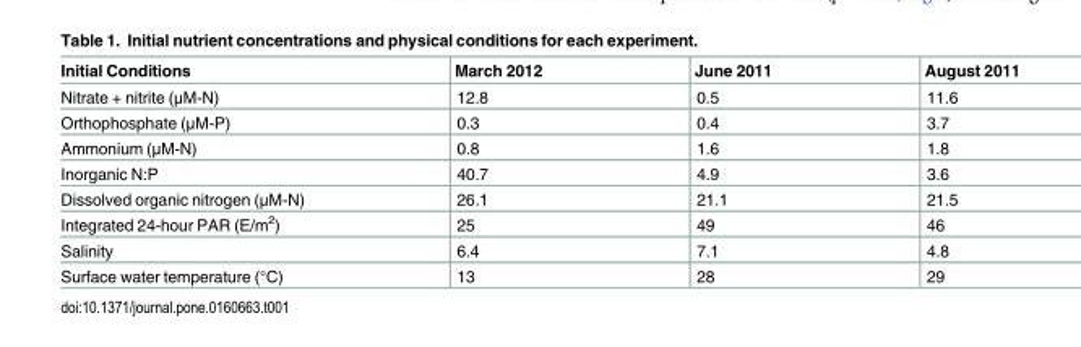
<table><thead><tr><td>Initial Conditions</td><td>March 2012</td><td>June 2011</td><td>August 2011</td></tr></thead><tbody><tr><td>Nitrate + nitrite (μM-N)</td><td>12.8</td><td>0.5</td><td>11.6</td></tr><tr><td>Orthophosphate (μM-P)</td><td>0.3</td><td>0.4</td><td>3.7</td></tr><tr><td>Ammonium (μM-N)</td><td>0.8</td><td>1.6</td><td>1.8</td></tr><tr><td>Inorganic N:P</td><td>40.7</td><td>4.9</td><td>3.6</td></tr><tr><td>Dissolved organic nitrogen (μM-N)</td><td>26.1</td><td>21.1</td><td>21.5</td></tr><tr><td>Integrated 24-hour PAR (E/m<sup>2</sup>)</td><td>25</td><td>49</td><td>46</td></tr><tr><td>Salinity</td><td>6.4</td><td>7.1</td><td>4.8</td></tr><tr><td>Surface water temperature (°C)</td><td>13</td><td>28</td><td>29</td></tr></tbody></table>